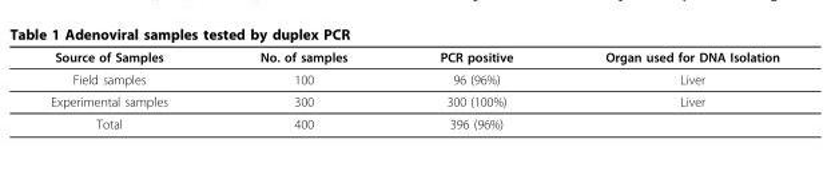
<table><thead><tr><td>Source of Samples</td><td>No. of samples</td><td>PCR positive</td><td>Organ used for DNA Isolation</td></tr></thead><tbody><tr><td>Field samples</td><td>100</td><td>96 (96%)</td><td>Liver</td></tr><tr><td>Experimental samples</td><td>300</td><td>300 (100%)</td><td>Liver</td></tr><tr><td>Total</td><td>400</td><td>396 (96%)</td><td></td></tr></tbody></table>